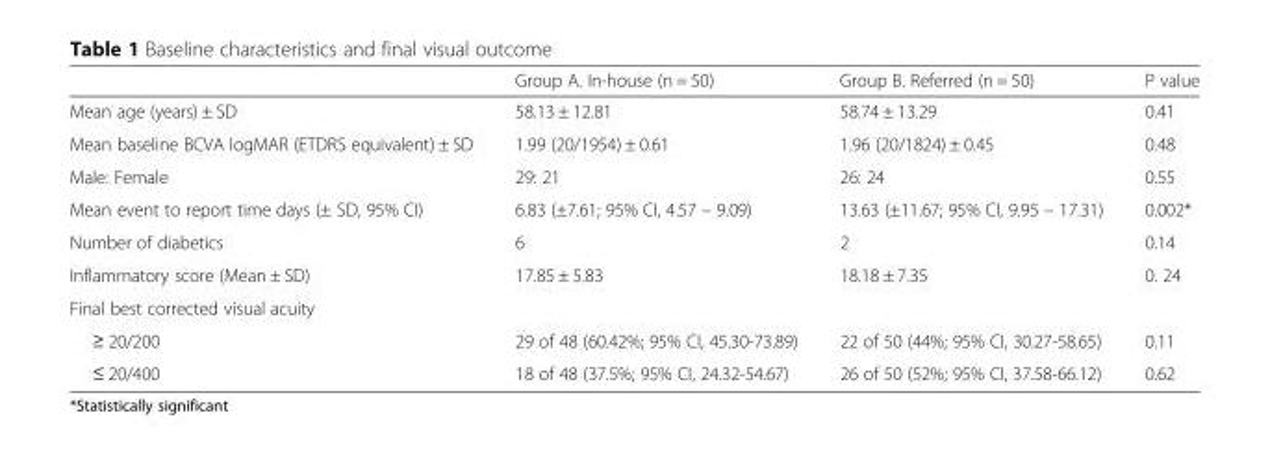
<table><thead><tr><td></td><td>Group A. In-house (n = 50)</td><td>Group B. Referred (n = 50)</td><td>P value</td></tr></thead><tbody><tr><td>Mean age (years) ± SD</td><td>58.13 ± 12.81</td><td>58.74 ± 13.29</td><td>0.41</td></tr><tr><td>Mean baseline BCVA logMAR (ETDRS equivalent) ± SD</td><td>1.99 (20/1954) ± 0.61</td><td>1.96 (20/1824) ± 0.45</td><td>0.48</td></tr><tr><td>Male: Female</td><td>29: 21</td><td>26: 24</td><td>0.55</td></tr><tr><td>Mean event to report time days (± SD, 95% CI)</td><td>6.83 (±7.61; 95% CI, 4.57 – 9.09)</td><td>13.63 (±11.67; 95% CI, 9.95 – 17.31)</td><td>0.002*</td></tr><tr><td>Number of diabetics</td><td>6</td><td>2</td><td>0.14</td></tr><tr><td>Inflammatory score (Mean ± SD)</td><td>17.85 ± 5.83</td><td>18.18 ± 7.35</td><td>0. 24</td></tr><tr><td colspan="4">Final best corrected visual acuity</td></tr><tr><td>≥ 20/200</td><td>29 of 48 (60.42%; 95% CI, 45.30-73.89)</td><td>22 of 50 (44%; 95% CI, 30.27-58.65)</td><td>0.11</td></tr><tr><td>≤ 20/400</td><td>18 of 48 (37.5%; 95% CI, 24.32-54.67)</td><td>26 of 50 (52%; 95% CI, 37.58-66.12)</td><td>0.62</td></tr></tbody></table>